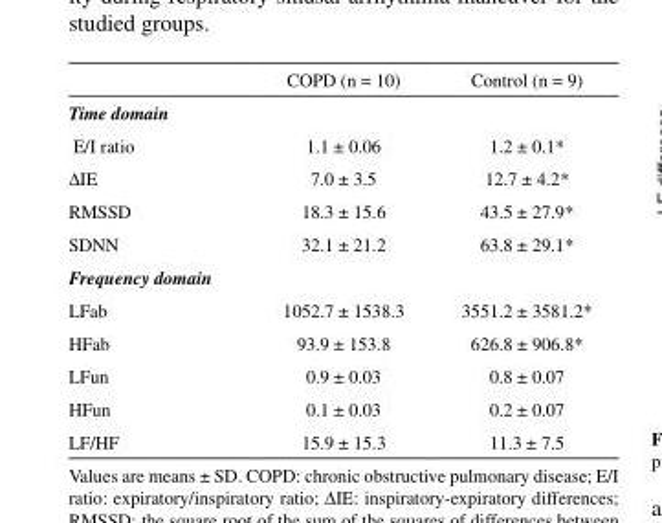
<table><thead><tr><td></td><td>COPD (n = 10)</td><td>Control (n = 9)</td></tr></thead><tbody><tr><td colspan="3">Time domain</td></tr><tr><td>E/I ratio</td><td>1.1 ± 0.06</td><td>1.2 ± 0.1*</td></tr><tr><td>∆IE</td><td>7.0 ± 3.5</td><td>12.7 ± 4.2*</td></tr><tr><td>RMSSD</td><td>18.3 ± 15.6</td><td>43.5 ± 27.9*</td></tr><tr><td>SDNN</td><td>32.1 ± 21.2</td><td>63.8 ± 29.1*</td></tr><tr><td colspan="3">Frequency domain</td></tr><tr><td>LFab</td><td>1052.7 ± 1538.3</td><td>3551.2 ± 3581.2*</td></tr><tr><td>HFab</td><td>93.9 ± 153.8</td><td>626.8 ± 906.8*</td></tr><tr><td>LFun</td><td>0.9 ± 0.03</td><td>0.8 ± 0.07</td></tr><tr><td>HFun</td><td>0.1 ± 0.03</td><td>0.2 ± 0.07</td></tr><tr><td>LF/HF</td><td>15.9 ± 15.3</td><td>11.3 ± 7.5</td></tr></tbody></table>